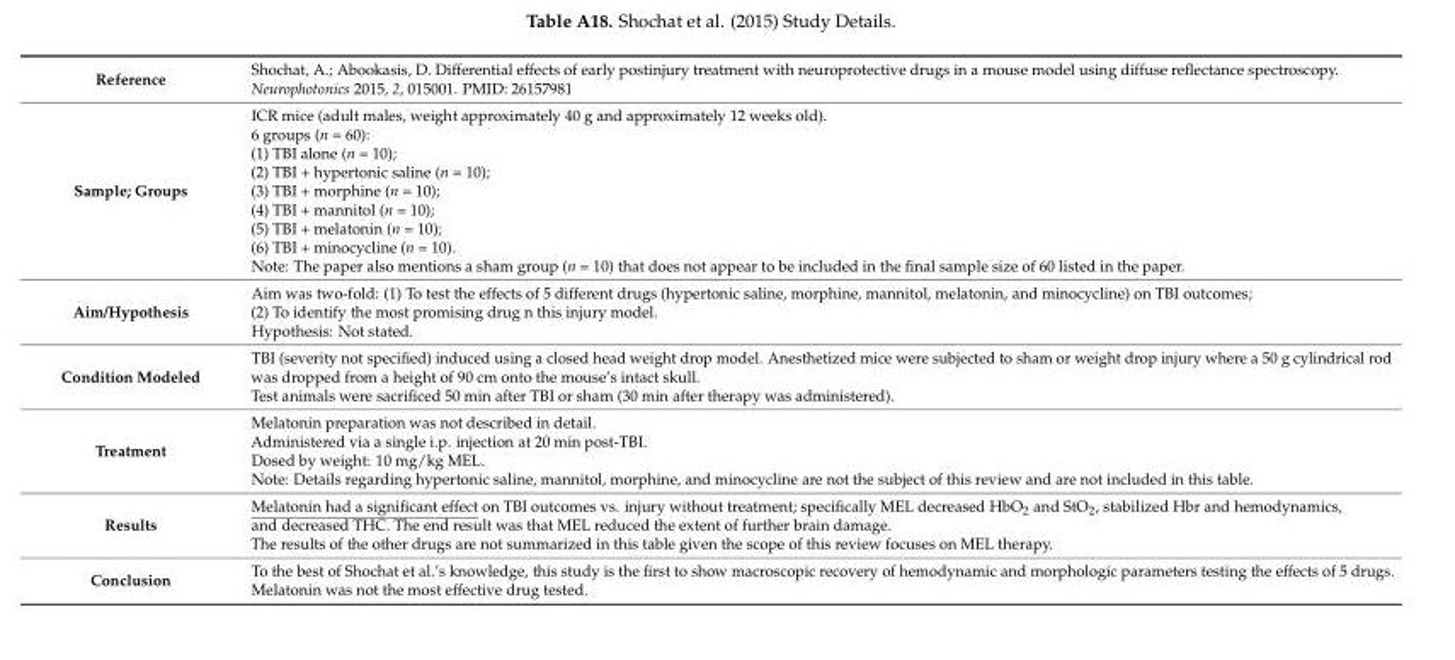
<table><tbody><tr><td>Reference</td><td>Shochat, A.; Abookasis, D. Differential effects of early postinjury treatment with neuroprotective drugs in a mouse model using diffuse reflectance spectroscopy. Neurophotonics 2015, 2, 015001. PMID: 26157981</td></tr><tr><td>Sample; Groups</td><td>ICR mice (adult males, weight approximately 40 g and approximately 12 weeks old). 6 groups (n = 60): (1) TBI alone (n = 10); (2) TBI + hypertonic saline (n = 10); (3) TBI + morphine (n = 10); (4) TBI + mannitol (n = 10); (5) TBI + melatonin (n = 10); (6) TBI + minocycline (n = 10). Note: The paper also mentions a sham group (n = 10) that does not appear to be included in the final sample size of 60 listed in the paper.</td></tr><tr><td>Aim/Hypothesis</td><td>Aim was two-fold: (1) To test the effects of 5 different drugs (hypertonic saline, morphine, mannitol, melatonin, and minocycline) on TBI outcomes; (2) To identify the most promising drug n this injury model. Hypothesis: Not stated.</td></tr><tr><td>Condition Modeled</td><td>TBI (severity not specified) induced using a closed head weight drop model. Anesthetized mice were subjected to sham or weight drop injury where a 50 g cylindrical rod was dropped from a height of 90 cm onto the mouse’s intact skull. Test animals were sacrificed 50 min after TBI or sham (30 min after therapy was administered).</td></tr><tr><td>Treatment</td><td>Melatonin preparation was not described in detail. Administered via a single i.p. injection at 20 min post-TBI. Dosed by weight: 10 mg/kg MEL. Note: Details regarding hypertonic saline, mannitol, morphine, and minocycline are not the subject of this review and are not included in this table.</td></tr><tr><td>Results</td><td>Melatonin had a significant effect on TBI outcomes vs. injury without treatment; specifically MEL decreased HbO<sub>2</sub> and StO<sub>2</sub>, stabilized Hbr and hemodynamics, and decreased THC. The end result was that MEL reduced the extent of further brain damage. The results of the other drugs are not summarized in this table given the scope of this review focuses on MEL therapy.</td></tr><tr><td>Conclusion</td><td>To the best of Shochat et al.’s knowledge, this study is the first to show macroscopic recovery of hemodynamic and morphologic parameters testing the effects of 5 drugs. Melatonin was not the most effective drug tested.</td></tr></tbody></table>